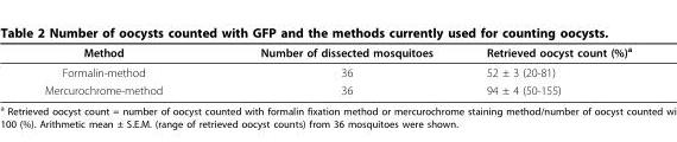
<table><thead><tr><td>Method</td><td>Number of dissected mosquitoes</td><td>Retrieved oocyst count (%)<sup>a</sup></td></tr></thead><tbody><tr><td>Formalin-method</td><td>36</td><td>52 ± 3 (20-81)</td></tr><tr><td>Mercurochrome-method</td><td>36</td><td>94 ± 4 (50-155)</td></tr></tbody></table>